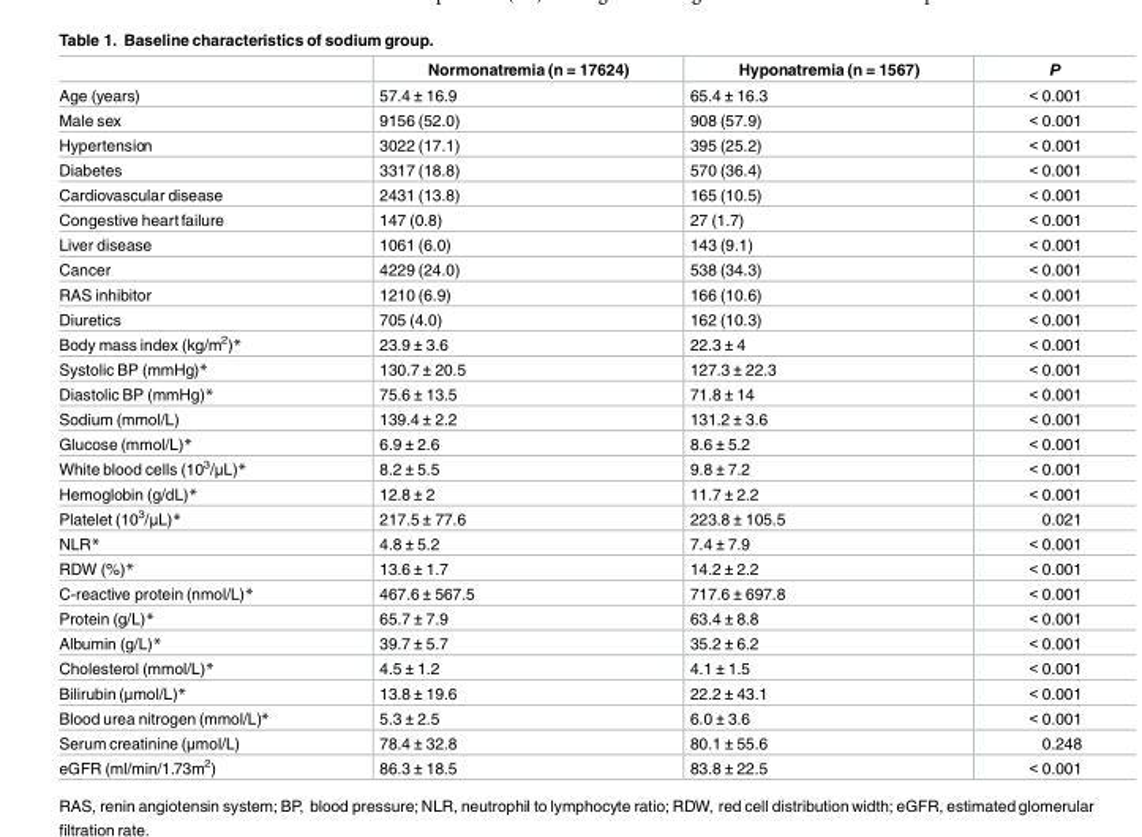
<table><thead><tr><td></td><td>Normonatremia (n = 17624)</td><td>Hyponatremia (n = 1567)</td><td>P</td></tr></thead><tbody><tr><td>Age (years)</td><td>57.4 ± 16.9</td><td>65.4 ± 16.3</td><td>&lt; 0.001</td></tr><tr><td>Male sex</td><td>9156 (52.0)</td><td>908 (57.9)</td><td>&lt; 0.001</td></tr><tr><td>Hypertension</td><td>3022 (17.1)</td><td>395 (25.2)</td><td>&lt; 0.001</td></tr><tr><td>Diabetes</td><td>3317 (18.8)</td><td>570 (36.4)</td><td>&lt; 0.001</td></tr><tr><td>Cardiovascular disease</td><td>2431 (13.8)</td><td>165 (10.5)</td><td>&lt; 0.001</td></tr><tr><td>Congestive heart failure</td><td>147 (0.8)</td><td>27 (1.7)</td><td>&lt; 0.001</td></tr><tr><td>Liver disease</td><td>1061 (6.0)</td><td>143 (9.1)</td><td>&lt; 0.001</td></tr><tr><td>Cancer</td><td>4229 (24.0)</td><td>538 (34.3)</td><td>&lt; 0.001</td></tr><tr><td>RAS inhibitor</td><td>1210 (6.9)</td><td>166 (10.6)</td><td>&lt; 0.001</td></tr><tr><td>Diuretics</td><td>705 (4.0)</td><td>162 (10.3)</td><td>&lt; 0.001</td></tr><tr><td>Body mass index (kg/m<sup>2</sup>)*</td><td>23.9 ± 3.6</td><td>22.3 ± 4</td><td>&lt; 0.001</td></tr><tr><td>Systolic BP (mmHg)*</td><td>130.7 ± 20.5</td><td>127.3 ± 22.3</td><td>&lt; 0.001</td></tr><tr><td>Diastolic BP (mmHg)*</td><td>75.6 ± 13.5</td><td>71.8 ± 14</td><td>&lt; 0.001</td></tr><tr><td>Sodium (mmol/L)</td><td>139.4 ± 2.2</td><td>131.2 ± 3.6</td><td>&lt; 0.001</td></tr><tr><td>Glucose (mmol/L)*</td><td>6.9 ± 2.6</td><td>8.6 ± 5.2</td><td>&lt; 0.001</td></tr><tr><td>White blood cells (10<sup>3</sup>/μL)*</td><td>8.2 ± 5.5</td><td>9.8 ± 7.2</td><td>&lt; 0.001</td></tr><tr><td>Hemoglobin (g/dL)*</td><td>12.8 ± 2</td><td>11.7 ± 2.2</td><td>&lt; 0.001</td></tr><tr><td>Platelet (10<sup>3</sup>/μL)*</td><td>217.5 ± 77.6</td><td>223.8 ± 105.5</td><td>0.021</td></tr><tr><td>NLR*</td><td>4.8 ± 5.2</td><td>7.4 ± 7.9</td><td>&lt; 0.001</td></tr><tr><td>RDW (%)*</td><td>13.6 ± 1.7</td><td>14.2 ± 2.2</td><td>&lt; 0.001</td></tr><tr><td>C-reactive protein (nmol/L)*</td><td>467.6 ± 567.5</td><td>717.6 ± 697.8</td><td>&lt; 0.001</td></tr><tr><td>Protein (g/L)*</td><td>65.7 ± 7.9</td><td>63.4 ± 8.8</td><td>&lt; 0.001</td></tr><tr><td>Albumin (g/L)*</td><td>39.7 ± 5.7</td><td>35.2 ± 6.2</td><td>&lt; 0.001</td></tr><tr><td>Cholesterol (mmol/L)*</td><td>4.5 ± 1.2</td><td>4.1 ± 1.5</td><td>&lt; 0.001</td></tr><tr><td>Bilirubin (μmol/L)*</td><td>13.8 ± 19.6</td><td>22.2 ± 43.1</td><td>&lt; 0.001</td></tr><tr><td>Blood urea nitrogen (mmol/L)*</td><td>5.3 ± 2.5</td><td>6.0 ± 3.6</td><td>&lt; 0.001</td></tr><tr><td>Serum creatinine (μmol/L)</td><td>78.4 ± 32.8</td><td>80.1 ± 55.6</td><td>0.248</td></tr><tr><td>eGFR (ml/min/1.73m<sup>2</sup>)</td><td>86.3 ± 18.5</td><td>83.8 ± 22.5</td><td>&lt; 0.001</td></tr></tbody></table>